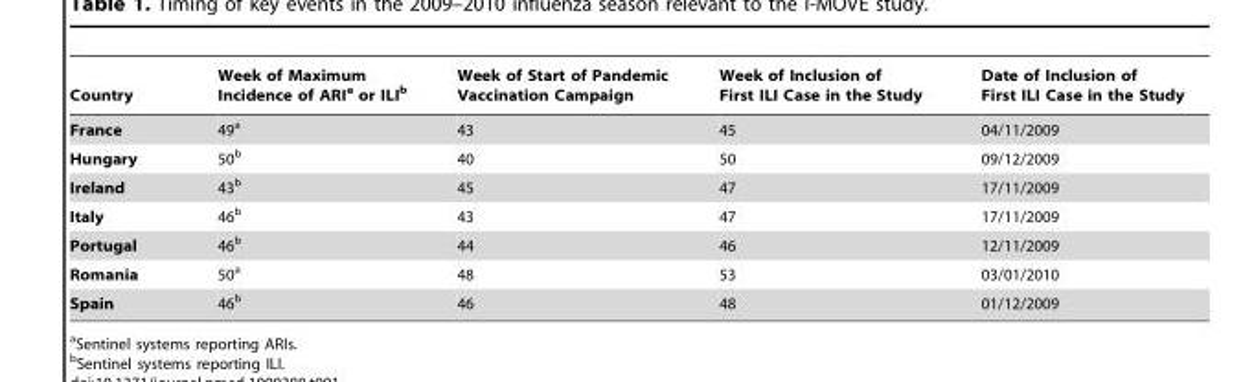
<table><thead><tr><td>Country</td><td>Week of Maximum Incidence of ARI<sup>a</sup> or ILI<sup>b</sup></td><td>Week of Start of Pandemic Vaccination Campaign</td><td>Week of Inclusion of First ILI Case in the Study</td><td>Date of Inclusion of First ILI Case in the Study</td></tr></thead><tbody><tr><td>France</td><td>49<sup>a</sup></td><td>43</td><td>45</td><td>04/11/2009</td></tr><tr><td>Hungary</td><td>50<sup>b</sup></td><td>40</td><td>50</td><td>09/12/2009</td></tr><tr><td>Ireland</td><td>43<sup>b</sup></td><td>45</td><td>47</td><td>17/11/2009</td></tr><tr><td>Italy</td><td>46<sup>b</sup></td><td>43</td><td>47</td><td>17/11/2009</td></tr><tr><td>Portugal</td><td>46<sup>b</sup></td><td>44</td><td>46</td><td>12/11/2009</td></tr><tr><td>Romania</td><td>50<sup>a</sup></td><td>48</td><td>53</td><td>03/01/2010</td></tr><tr><td>Spain</td><td>46<sup>b</sup></td><td>46</td><td>48</td><td>01/12/2009</td></tr></tbody></table>